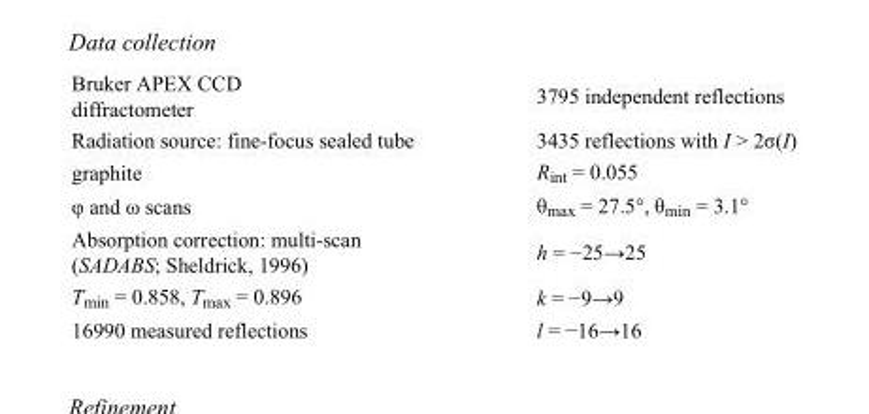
<table><tbody><tr><td>Bruker APEX CCD diffractometer</td><td>3795 independent reflections</td></tr><tr><td>Radiation source: fine-focus sealed tube</td><td>3435 reflections with I &gt; 2σ(I)</td></tr><tr><td>graphite</td><td>R<sub>int</sub> = 0.055</td></tr><tr><td>φ and ω scans</td><td>θ<sub>max</sub> = 27.5°, θ<sub>min</sub> = 3.1°</td></tr><tr><td>Absorption correction: multi-scan (SADABS; Sheldrick, 1996)</td><td>h = −25→25</td></tr><tr><td>T<sub>min</sub> = 0.858, T<sub>max</sub> = 0.896</td><td>k = −9→9</td></tr><tr><td>16990 measured reflections</td><td>l = −16→16</td></tr></tbody></table>